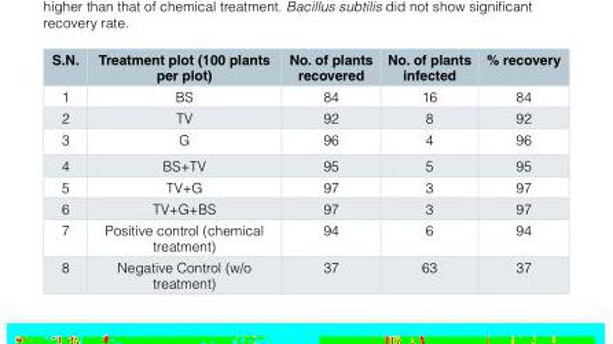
<table><thead><tr><td>S.N.</td><td>Treatment plot (100 plants per plot)</td><td>No. of plants recovered</td><td>No. of plants infected</td><td>% recovery</td></tr></thead><tbody><tr><td>1</td><td>BS</td><td>84</td><td>16</td><td>84</td></tr><tr><td>2</td><td>TV</td><td>92</td><td>8</td><td>92</td></tr><tr><td>3</td><td>G</td><td>96</td><td>4</td><td>96</td></tr><tr><td>4</td><td>BS+TV</td><td>95</td><td>5</td><td>95</td></tr><tr><td>5</td><td>TV+G</td><td>97</td><td>3</td><td>97</td></tr><tr><td>6</td><td>TV+G+BS</td><td>97</td><td>3</td><td>97</td></tr><tr><td>7</td><td>Positive control (chemical treatment)</td><td>94</td><td>6</td><td>94</td></tr><tr><td>8</td><td>Negative Control (w/o treatment)</td><td>37</td><td>63</td><td>37</td></tr></tbody></table>